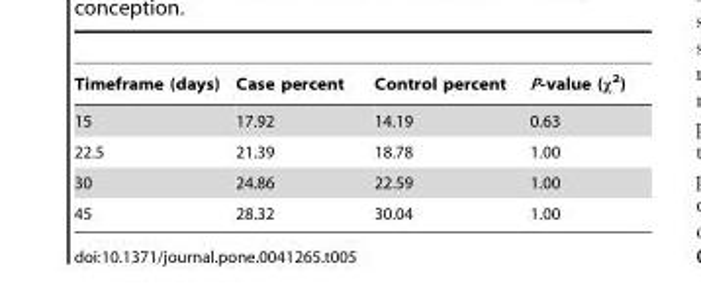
<table><thead><tr><td>Timeframe (days)</td><td>Case percent</td><td>Control percent</td><td>P-value (χ<sup>2</sup>)</td></tr></thead><tbody><tr><td>15</td><td>17.92</td><td>14.19</td><td>0.63</td></tr><tr><td>22.5</td><td>21.39</td><td>18.78</td><td>1.00</td></tr><tr><td>30</td><td>24.86</td><td>22.59</td><td>1.00</td></tr><tr><td>45</td><td>28.32</td><td>30.04</td><td>1.00</td></tr></tbody></table>